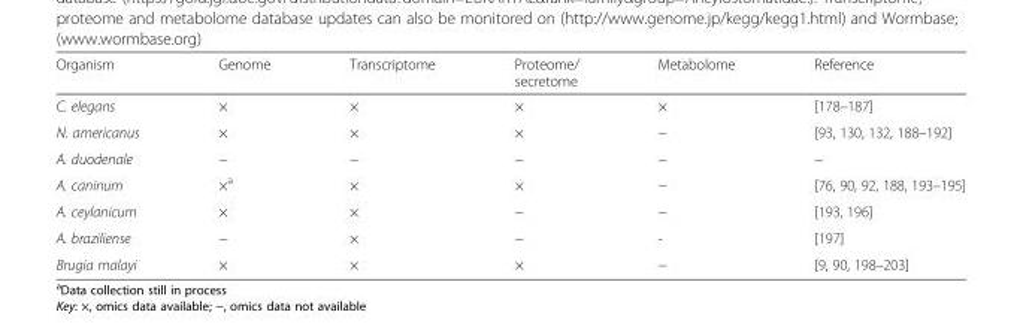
<table><thead><tr><td>Organism</td><td>Genome</td><td>Transcriptome</td><td>Proteome/ secretome</td><td>Metabolome</td><td>Reference</td></tr></thead><tbody><tr><td>C. elegans</td><td>×</td><td>×</td><td>×</td><td>×</td><td>[178–187]</td></tr><tr><td>N. americanus</td><td>×</td><td>×</td><td>×</td><td>−</td><td>[93, 130, 132, 188–192]</td></tr><tr><td>A. duodenale</td><td>−</td><td>−</td><td>−</td><td>−</td><td>−</td></tr><tr><td>A. caninum</td><td>×<sup>a</sup></td><td>×</td><td>×</td><td>−</td><td>[76, 90, 92, 188, 193–195]</td></tr><tr><td>A. ceylanicum</td><td>×</td><td>×</td><td>−</td><td>−</td><td>[193, 196]</td></tr><tr><td>A. braziliense</td><td>−</td><td>×</td><td>−</td><td>-</td><td>[197]</td></tr><tr><td>Brugia malayi</td><td>×</td><td>×</td><td>×</td><td>−</td><td>[9, 90, 198–203]</td></tr></tbody></table>